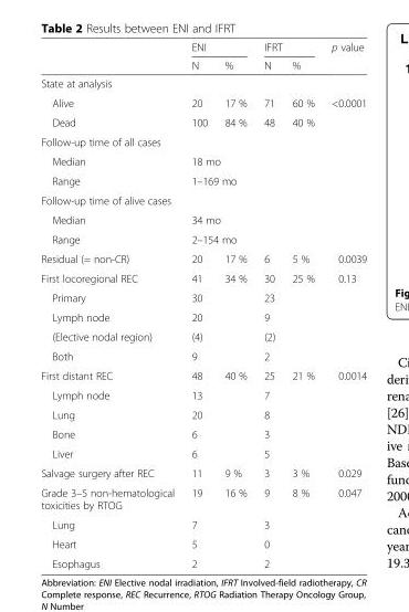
<table><thead><tr><td rowspan="2"></td><td colspan="2">ENI</td><td colspan="2">IFRT</td><td rowspan="2">p value</td></tr><tr><td>N</td><td>%</td><td>N</td><td>%</td></tr></thead><tbody><tr><td colspan="6">State at analysis</td></tr><tr><td>Alive</td><td>20</td><td>17 %</td><td>71</td><td>60 %</td><td>&lt;0.0001</td></tr><tr><td>Dead</td><td>100</td><td>84 %</td><td>48</td><td>40 %</td><td></td></tr><tr><td colspan="6">Follow-up time of all cases</td></tr><tr><td>Median</td><td colspan="4">18 mo</td><td></td></tr><tr><td>Range</td><td colspan="4">1–169 mo</td><td></td></tr><tr><td colspan="6">Follow-up time of alive cases</td></tr><tr><td>Median</td><td colspan="4">34 mo</td><td></td></tr><tr><td>Range</td><td colspan="4">2–154 mo</td><td></td></tr><tr><td>Residual (= non-CR)</td><td>20</td><td>17 %</td><td>6</td><td>5 %</td><td>0.0039</td></tr><tr><td>First locoregional REC</td><td>41</td><td>34 %</td><td>30</td><td>25 %</td><td>0.13</td></tr><tr><td>Primary</td><td>30</td><td></td><td>23</td><td></td><td></td></tr><tr><td>Lymph node</td><td>20</td><td></td><td>9</td><td></td><td></td></tr><tr><td>(Elective nodal region)</td><td>(4)</td><td></td><td>(2)</td><td></td><td></td></tr><tr><td>Both</td><td>9</td><td></td><td>2</td><td></td><td></td></tr><tr><td>First distant REC</td><td>48</td><td>40 %</td><td>25</td><td>21 %</td><td>0.0014</td></tr><tr><td>Lymph node</td><td>13</td><td></td><td>7</td><td></td><td></td></tr><tr><td>Lung</td><td>20</td><td></td><td>8</td><td></td><td></td></tr><tr><td>Bone</td><td>6</td><td></td><td>3</td><td></td><td></td></tr><tr><td>Liver</td><td>6</td><td></td><td>5</td><td></td><td></td></tr><tr><td>Salvage surgery after REC</td><td>11</td><td>9 %</td><td>3</td><td>3 %</td><td>0.029</td></tr><tr><td>Grade 3–5 non-hematological toxicities by RTOG</td><td>19</td><td>16 %</td><td>9</td><td>8 %</td><td>0.047</td></tr><tr><td>Lung</td><td>7</td><td></td><td>3</td><td></td><td></td></tr><tr><td>Heart</td><td>5</td><td></td><td>0</td><td></td><td></td></tr><tr><td>Esophagus</td><td>2</td><td></td><td>2</td><td></td><td></td></tr></tbody></table>